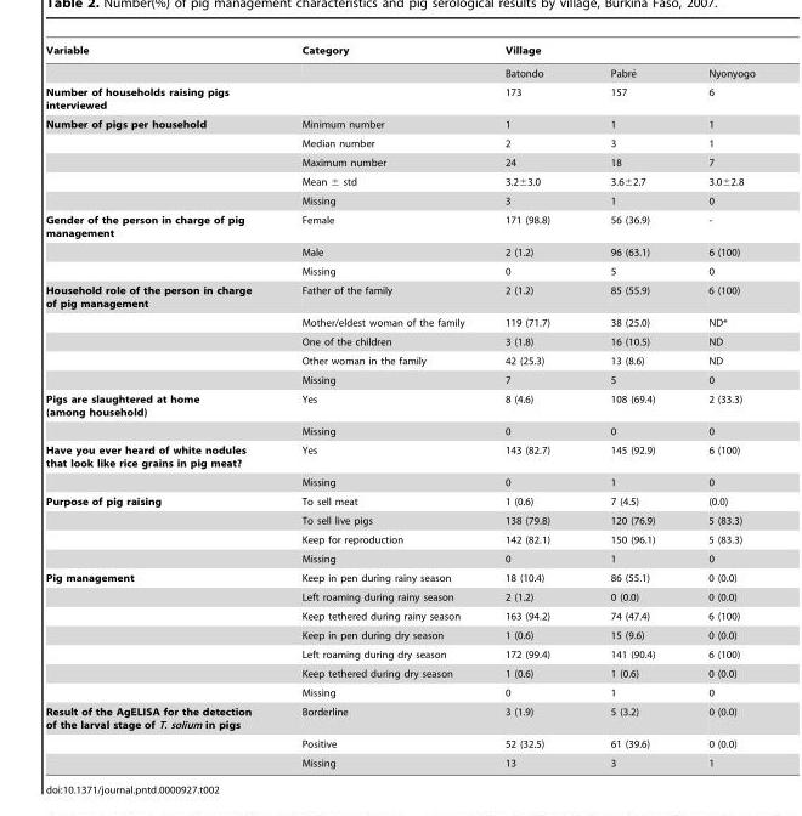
<table><thead><tr><td rowspan="2">Variable</td><td rowspan="2">Category</td><td colspan="3">Village</td></tr><tr><td>Batondo</td><td>Pabre´</td><td>Nyonyogo</td></tr></thead><tbody><tr><td>Number of households raising pigs interviewed</td><td></td><td>173</td><td>157</td><td>6</td></tr><tr><td rowspan="5">Number of pigs per household</td><td>Minimum number</td><td>1</td><td>1</td><td>1</td></tr><tr><td>Median number</td><td>2</td><td>3</td><td>1</td></tr><tr><td>Maximum number</td><td>24</td><td>18</td><td>7</td></tr><tr><td>Mean ± std</td><td>3.2±3.0</td><td>3.6±2.7</td><td>3.0±2.8</td></tr><tr><td>Missing</td><td>3</td><td>1</td><td>0</td></tr><tr><td rowspan="3">Gender of the person in charge of pig management</td><td>Female</td><td>171 (98.8)</td><td>56 (36.9)</td><td>-</td></tr><tr><td>Male</td><td>2 (1.2)</td><td>96 (63.1)</td><td>6 (100)</td></tr><tr><td>Missing</td><td>0</td><td>5</td><td>0</td></tr><tr><td rowspan="5">Household role of the person in charge of pig management</td><td>Father of the family</td><td>2 (1.2)</td><td>85 (55.9)</td><td>6 (100)</td></tr><tr><td>Mother/eldest woman of the family</td><td>119 (71.7)</td><td>38 (25.0)</td><td>ND*</td></tr><tr><td>One of the children</td><td>3 (1.8)</td><td>16 (10.5)</td><td>ND</td></tr><tr><td>Other woman in the family</td><td>42 (25.3)</td><td>13 (8.6)</td><td>ND</td></tr><tr><td>Missing</td><td>7</td><td>5</td><td>0</td></tr><tr><td rowspan="2">Pigs are slaughtered at home (among household)</td><td>Yes</td><td>8 (4.6)</td><td>108 (69.4)</td><td>2 (33.3)</td></tr><tr><td>Missing</td><td>0</td><td>0</td><td>0</td></tr><tr><td rowspan="2">Have you ever heard of white nodules that look like rice grains in pig meat?</td><td>Yes</td><td>143 (82.7)</td><td>145 (92.9)</td><td>6 (100)</td></tr><tr><td>Missing</td><td>0</td><td>1</td><td>0</td></tr><tr><td rowspan="4">Purpose of pig raising</td><td>To sell meat</td><td>1 (0.6)</td><td>7 (4.5)</td><td>(0.0)</td></tr><tr><td>To sell live pigs</td><td>138 (79.8)</td><td>120 (76.9)</td><td>5 (83.3)</td></tr><tr><td>Keep for reproduction</td><td>142 (82.1)</td><td>150 (96.1)</td><td>5 (83.3)</td></tr><tr><td>Missing</td><td>0</td><td>1</td><td>0</td></tr><tr><td rowspan="7">Pig management</td><td>Keep in pen during rainy season</td><td>18 (10.4)</td><td>86 (55.1)</td><td>0 (0.0)</td></tr><tr><td>Left roaming during rainy season</td><td>2 (1.2)</td><td>0 (0.0)</td><td>0 (0.0)</td></tr><tr><td>Keep tethered during rainy season</td><td>163 (94.2)</td><td>74 (47.4)</td><td>6 (100)</td></tr><tr><td>Keep in pen during dry season</td><td>1 (0.6)</td><td>15 (9.6)</td><td>0 (0.0)</td></tr><tr><td>Left roaming during dry season</td><td>172 (99.4)</td><td>141 (90.4)</td><td>6 (100)</td></tr><tr><td>Keep tethered during dry season</td><td>1 (0.6)</td><td>1 (0.6)</td><td>0 (0.0)</td></tr><tr><td>Missing</td><td>0</td><td>1</td><td>0</td></tr><tr><td rowspan="3">Result of the AgELISA for the detection of the larval stage of T. solium in pigs</td><td>Borderline</td><td>3 (1.9)</td><td>5 (3.2)</td><td>0 (0.0)</td></tr><tr><td>Positive</td><td>52 (32.5)</td><td>61 (39.6)</td><td>0 (0.0)</td></tr><tr><td>Missing</td><td>13</td><td>3</td><td>1</td></tr></tbody></table>